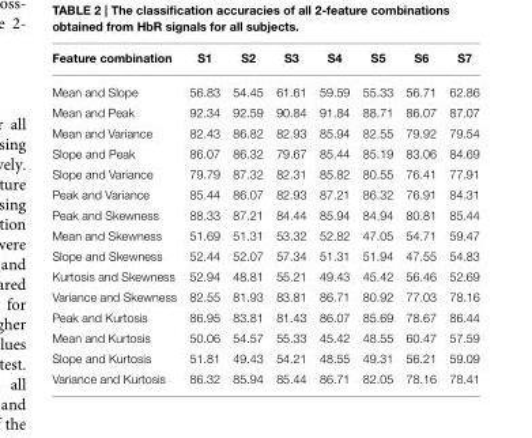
<table><thead><tr><td>Feature combination</td><td>S1</td><td>S2</td><td>S3</td><td>S4</td><td>S5</td><td>S6</td><td>S7</td></tr></thead><tbody><tr><td>Mean and Slope</td><td>56.83</td><td>54.45</td><td>61.61</td><td>59.59</td><td>55.33</td><td>56.71</td><td>62.86</td></tr><tr><td>Mean and Peak</td><td>92.34</td><td>92.59</td><td>90.84</td><td>91.84</td><td>88.71</td><td>86.07</td><td>87.07</td></tr><tr><td>Mean and Variance</td><td>82.43</td><td>86.82</td><td>82.93</td><td>85.94</td><td>82.55</td><td>79.92</td><td>79.54</td></tr><tr><td>Slope and Peak</td><td>86.07</td><td>86.32</td><td>79.67</td><td>85.44</td><td>85.19</td><td>83.06</td><td>84.69</td></tr><tr><td>Slope and Variance</td><td>79.79</td><td>87.32</td><td>82.31</td><td>85.82</td><td>80.55</td><td>76.41</td><td>77.91</td></tr><tr><td>Peak and Variance</td><td>85.44</td><td>86.07</td><td>82.93</td><td>87.21</td><td>86.32</td><td>76.91</td><td>84.31</td></tr><tr><td>Peak and Skewness</td><td>88.33</td><td>87.21</td><td>84.44</td><td>85.94</td><td>84.94</td><td>80.81</td><td>85.44</td></tr><tr><td>Mean and Skewness</td><td>51.69</td><td>51.31</td><td>53.32</td><td>52.82</td><td>47.05</td><td>54.71</td><td>59.47</td></tr><tr><td>Slope and Skewness</td><td>52.44</td><td>52.07</td><td>57.34</td><td>51.31</td><td>51.94</td><td>47.55</td><td>54.83</td></tr><tr><td>Kurtosis and Skewness</td><td>52.94</td><td>48.81</td><td>55.21</td><td>49.43</td><td>45.42</td><td>56.46</td><td>52.69</td></tr><tr><td>Variance and Skewness</td><td>82.55</td><td>81.93</td><td>83.81</td><td>86.71</td><td>80.92</td><td>77.03</td><td>78.16</td></tr><tr><td>Peak and Kurtosis</td><td>86.95</td><td>83.81</td><td>81.43</td><td>86.07</td><td>85.69</td><td>78.67</td><td>86.44</td></tr><tr><td>Mean and Kurtosis</td><td>50.06</td><td>54.57</td><td>55.33</td><td>45.42</td><td>48.55</td><td>60.47</td><td>57.59</td></tr><tr><td>Slope and Kurtosis</td><td>51.81</td><td>49.43</td><td>54.21</td><td>48.55</td><td>49.31</td><td>56.21</td><td>59.09</td></tr><tr><td>Variance and Kurtosis</td><td>86.32</td><td>85.94</td><td>85.44</td><td>86.71</td><td>82.05</td><td>78.16</td><td>78.41</td></tr></tbody></table>